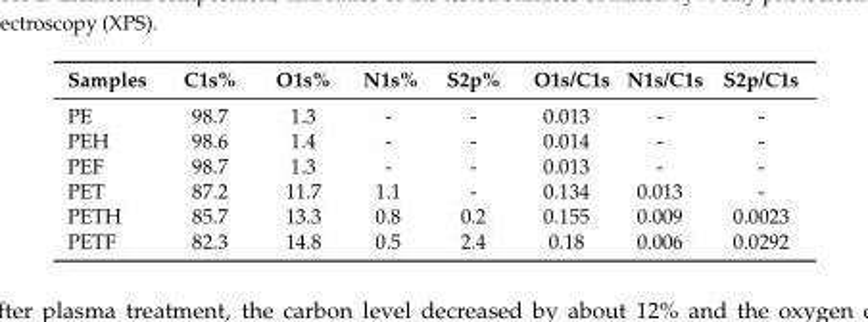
<table><thead><tr><td>Samples</td><td>C1s%</td><td>O1s%</td><td>N1s%</td><td>S2p%</td><td>O1s/C1s</td><td>N1s/C1s</td><td>S2p/C1s</td></tr></thead><tbody><tr><td>PE</td><td>98.7</td><td>1.3</td><td>-</td><td>-</td><td>0.013</td><td>-</td><td>-</td></tr><tr><td>PEH</td><td>98.6</td><td>1.4</td><td>-</td><td>-</td><td>0.014</td><td>-</td><td>-</td></tr><tr><td>PEF</td><td>98.7</td><td>1.3</td><td>-</td><td>-</td><td>0.013</td><td>-</td><td>-</td></tr><tr><td>PET</td><td>87.2</td><td>11.7</td><td>1.1</td><td>-</td><td>0.134</td><td>0.013</td><td>-</td></tr><tr><td>PETH</td><td>85.7</td><td>13.3</td><td>0.8</td><td>0.2</td><td>0.155</td><td>0.009</td><td>0.0023</td></tr><tr><td>PETF</td><td>82.3</td><td>14.8</td><td>0.5</td><td>2.4</td><td>0.18</td><td>0.006</td><td>0.0292</td></tr></tbody></table>